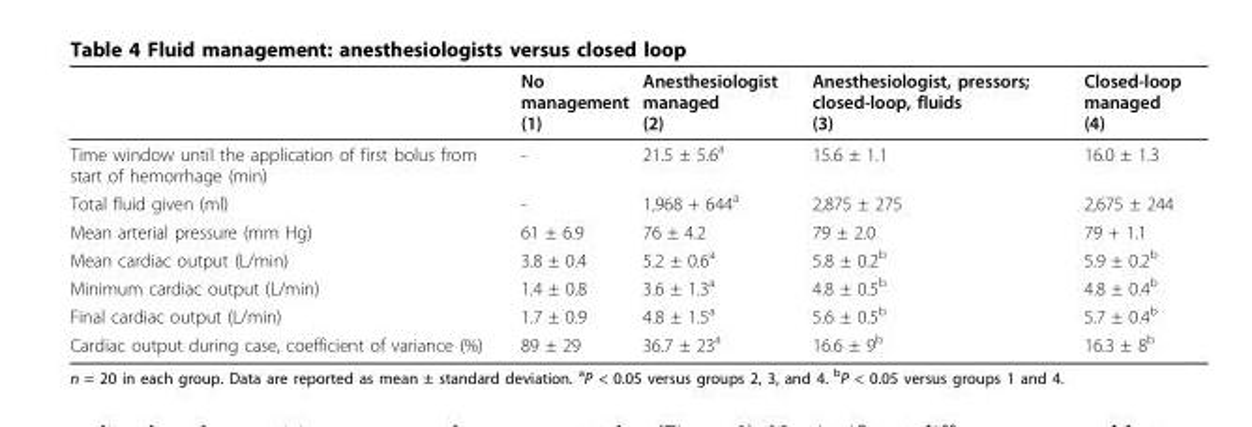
<table><thead><tr><td></td><td>No management (1)</td><td>Anesthesiologist managed (2)</td><td>Anesthesiologist, pressors; closed-loop, fluids (3)</td><td>Closed-loop managed (4)</td></tr></thead><tbody><tr><td>Time window until the application of first bolus from start of hemorrhage (min)</td><td>-</td><td>21.5 ± 5.6<sup>a</sup></td><td>15.6 ± 1.1</td><td>16.0 ± 1.3</td></tr><tr><td>Total fluid given (ml)</td><td>-</td><td>1,968 + 644<sup>a</sup></td><td>2,875 ± 275</td><td>2,675 ± 244</td></tr><tr><td>Mean arterial pressure (mm Hg)</td><td>61 ± 6.9</td><td>76 ± 4.2</td><td>79 ± 2.0</td><td>79 + 1.1</td></tr><tr><td>Mean cardiac output (L/min)</td><td>3.8 ± 0.4</td><td>5.2 ± 0.6<sup>a</sup></td><td>5.8 ± 0.2<sup>b</sup></td><td>5.9 ± 0.2<sup>b</sup></td></tr><tr><td>Minimum cardiac output (L/min)</td><td>1.4 ± 0.8</td><td>3.6 ± 1.3<sup>a</sup></td><td>4.8 ± 0.5<sup>b</sup></td><td>4.8 ± 0.4<sup>b</sup></td></tr><tr><td>Final cardiac output (L/min)</td><td>1.7 ± 0.9</td><td>4.8 ± 1.5<sup>a</sup></td><td>5.6 ± 0.5<sup>b</sup></td><td>5.7 ± 0.4<sup>b</sup></td></tr><tr><td>Cardiac output during case, coefficient of variance (%)</td><td>89 ± 29</td><td>36.7 ± 23<sup>a</sup></td><td>16.6 ± 9<sup>b</sup></td><td>16.3 ± 8<sup>b</sup></td></tr></tbody></table>